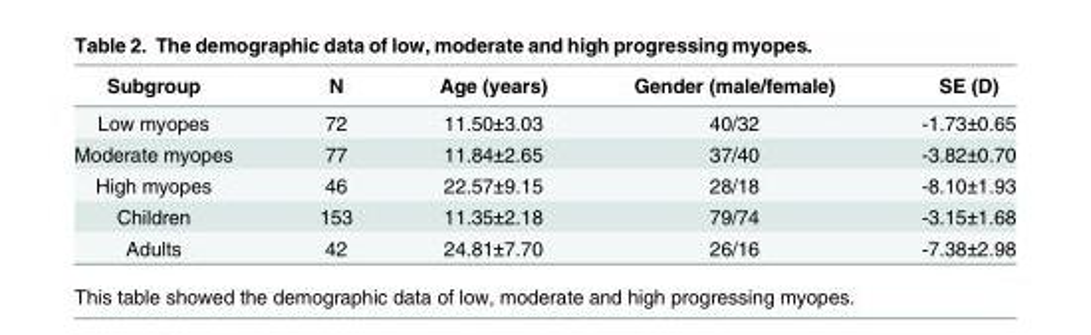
<table><thead><tr><td>Subgroup</td><td>N</td><td>Age (years)</td><td>Gender (male/female)</td><td>SE (D)</td></tr></thead><tbody><tr><td>Low myopes</td><td>72</td><td>11.50±3.03</td><td>40/32</td><td>-1.73±0.65</td></tr><tr><td>Moderate myopes</td><td>77</td><td>11.84±2.65</td><td>37/40</td><td>-3.82±0.70</td></tr><tr><td>High myopes</td><td>46</td><td>22.57±9.15</td><td>28/18</td><td>-8.10±1.93</td></tr><tr><td>Children</td><td>153</td><td>11.35±2.18</td><td>79/74</td><td>-3.15±1.68</td></tr><tr><td>Adults</td><td>42</td><td>24.81±7.70</td><td>26/16</td><td>-7.38±2.98</td></tr></tbody></table>